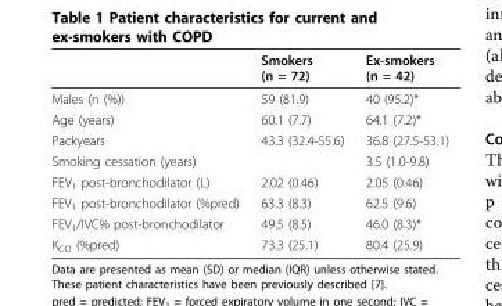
<table><thead><tr><td></td><td>Smokers (n = 72)</td><td>Ex-smokers (n = 42)</td></tr></thead><tbody><tr><td>Males (n (%))</td><td>59 (81.9)</td><td>40 (95.2)*</td></tr><tr><td>Age (years)</td><td>60.1 (7.7)</td><td>64.1 (7.2)*</td></tr><tr><td>Packyears</td><td>43.3 (32.4-55.6)</td><td>36.8 (27.5-53.1)</td></tr><tr><td>Smoking cessation (years)</td><td></td><td>3.5 (1.0-9.8)</td></tr><tr><td>FEV<sub>1</sub> post-bronchodilator (L)</td><td>2.02 (0.46)</td><td>2.05 (0.46)</td></tr><tr><td>FEV<sub>1</sub> post-bronchodilator (%pred)</td><td>63.3 (8.3)</td><td>62.5 (9.6)</td></tr><tr><td>FEV<sub>1</sub>/IVC% post-bronchodilator</td><td>49.5 (8.5)</td><td>46.0 (8.3)*</td></tr><tr><td>K<sub>CO</sub> (%pred)</td><td>73.3 (25.1)</td><td>80.4 (25.9)</td></tr></tbody></table>